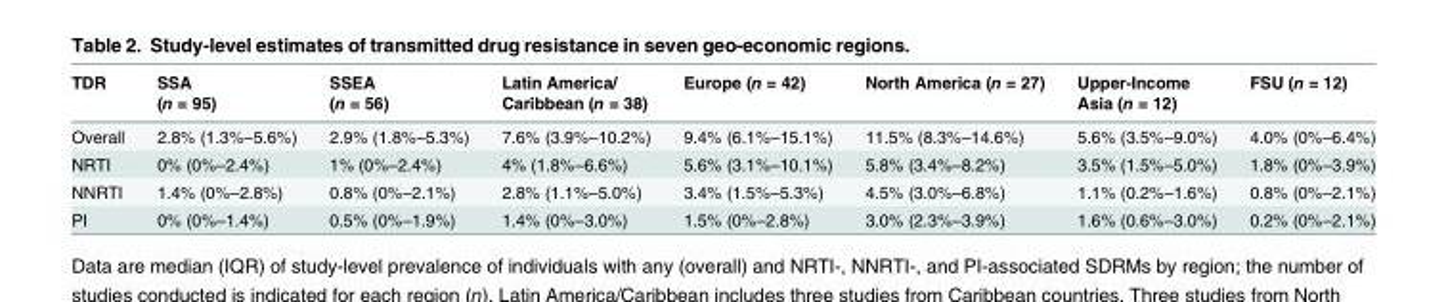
<table><thead><tr><td>TDR</td><td>SSA (n = 95)</td><td>SSEA (n = 56)</td><td>Latin America/ Caribbean (n = 38)</td><td>Europe (n = 42)</td><td>North America (n = 27)</td><td>Upper-Income Asia (n = 12)</td><td>FSU (n = 12)</td></tr></thead><tbody><tr><td>Overall</td><td>2.8% (1.3%–5.6%)</td><td>2.9% (1.8%–5.3%)</td><td>7.6% (3.9%–10.2%)</td><td>9.4% (6.1%–15.1%)</td><td>11.5% (8.3%–14.6%)</td><td>5.6% (3.5%–9.0%)</td><td>4.0% (0%–6.4%)</td></tr><tr><td>NRTI</td><td>0% (0%–2.4%)</td><td>1% (0%–2.4%)</td><td>4% (1.8%–6.6%)</td><td>5.6% (3.1%–10.1%)</td><td>5.8% (3.4%–8.2%)</td><td>3.5% (1.5%–5.0%)</td><td>1.8% (0%–3.9%)</td></tr><tr><td>NNRTI</td><td>1.4% (0%–2.8%)</td><td>0.8% (0%–2.1%)</td><td>2.8% (1.1%–5.0%)</td><td>3.4% (1.5%–5.3%)</td><td>4.5% (3.0%–6.8%)</td><td>1.1% (0.2%–1.6%)</td><td>0.8% (0%–2.1%)</td></tr><tr><td>PI</td><td>0% (0%–1.4%)</td><td>0.5% (0%–1.9%)</td><td>1.4% (0%–3.0%)</td><td>1.5% (0%–2.8%)</td><td>3.0% (2.3%–3.9%)</td><td>1.6% (0.6%–3.0%)</td><td>0.2% (0%–2.1%)</td></tr></tbody></table>